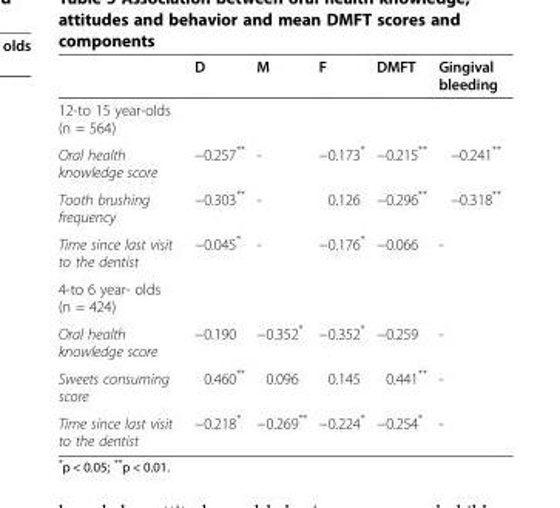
<table><thead><tr><td></td><td>D</td><td>M</td><td>F</td><td>DMFT</td><td>Gingival bleeding</td></tr></thead><tbody><tr><td colspan="6">12-to 15 year-olds (n = 564)</td></tr><tr><td>Oral health knowledge score</td><td>−0.257**</td><td>-</td><td>−0.173*</td><td>−0.215**</td><td>−0.241**</td></tr><tr><td>Tooth brushing frequency</td><td>−0.303**</td><td>-</td><td>0.126</td><td>−0.296**</td><td>−0.318**</td></tr><tr><td>Time since last visit to the dentist</td><td>−0.045*</td><td>-</td><td>−0.176*</td><td>−0.066</td><td>-</td></tr><tr><td colspan="6">4-to 6 year- olds (n = 424)</td></tr><tr><td>Oral health knowledge score</td><td>−0.190</td><td>−0.352*</td><td>−0.352*</td><td>−0.259</td><td>-</td></tr><tr><td>Sweets consuming score</td><td>0.460**</td><td>0.096</td><td>0.145</td><td>0.441**</td><td>-</td></tr><tr><td>Time since last visit to the dentist</td><td>−0.218*</td><td>−0.269**</td><td>−0.224*</td><td>−0.254*</td><td>-</td></tr></tbody></table>